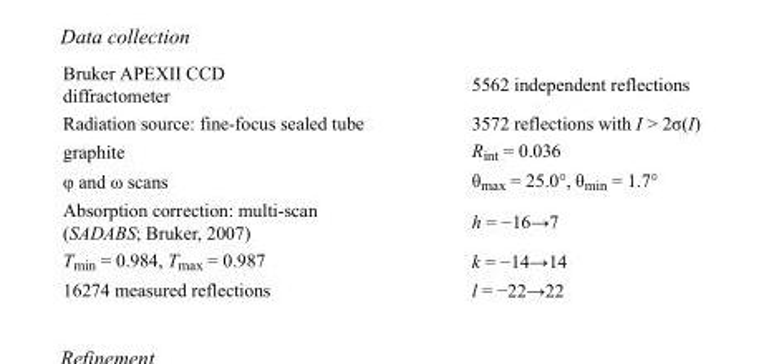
<table><tbody><tr><td>Bruker APEXII CCD diffractometer</td><td>5562 independent reflections</td></tr><tr><td>Radiation source: fine-focus sealed tube</td><td>3572 reflections with I &gt; 2σ(I)</td></tr><tr><td>graphite</td><td>R<sub>int</sub> = 0.036</td></tr><tr><td>φ and ω scans</td><td>θ<sub>max</sub> = 25.0°, θ<sub>min</sub> = 1.7°</td></tr><tr><td>Absorption correction: multi-scan (SADABS; Bruker, 2007)</td><td>h = −16→7</td></tr><tr><td>T<sub>min</sub> = 0.984, T<sub>max</sub> = 0.987</td><td>k = −14→14</td></tr><tr><td>16274 measured reflections</td><td>l = −22→22</td></tr></tbody></table>